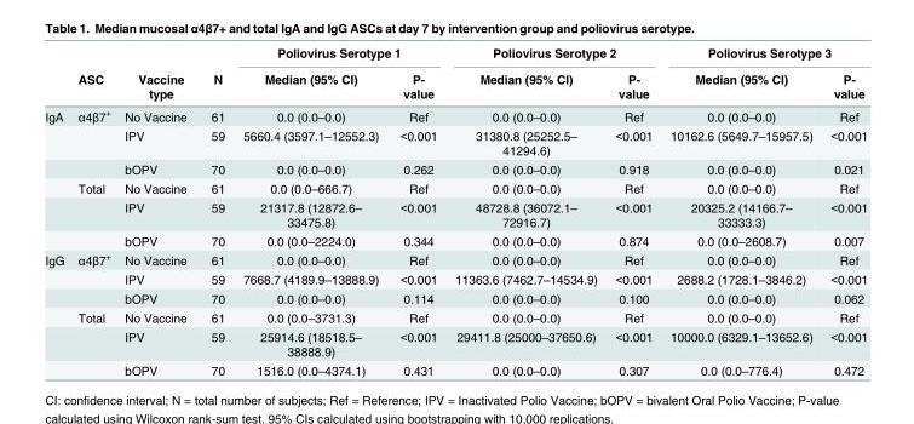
<table><thead><tr><td rowspan="2"></td><td rowspan="2">ASC</td><td rowspan="2">Vaccine type</td><td rowspan="2">N</td><td colspan="2">Poliovirus Serotype 1</td><td colspan="2">Poliovirus Serotype 2</td><td colspan="2">Poliovirus Serotype 3</td></tr><tr><td>Median (95% CI)</td><td>P- value</td><td>Median (95% CI)</td><td>P- value</td><td>Median (95% CI)</td><td>P- value</td></tr></thead><tbody><tr><td rowspan="6">IgA</td><td>α4β7<sup>+</sup></td><td>No Vaccine</td><td>61</td><td>0.0 (0.0–0.0)</td><td>Ref</td><td>0.0 (0.0–0.0)</td><td>Ref</td><td>0.0 (0.0–0.0)</td><td>Ref</td></tr><tr><td></td><td>IPV</td><td>59</td><td>5660.4 (3597.1–12552.3)</td><td>&lt;0.001</td><td>31380.8 (25252.5– 41294.6)</td><td>&lt;0.001</td><td>10162.6 (5649.7–15957.5)</td><td>&lt;0.001</td></tr><tr><td></td><td>bOPV</td><td>70</td><td>0.0 (0.0–0.0)</td><td>0.262</td><td>0.0 (0.0–0.0)</td><td>0.918</td><td>0.0 (0.0–0.0)</td><td>0.021</td></tr><tr><td>Total</td><td>No Vaccine</td><td>61</td><td>0.0 (0.0–666.7)</td><td>Ref</td><td>0.0 (0.0–0.0)</td><td>Ref</td><td>0.0 (0.0–0.0)</td><td>Ref</td></tr><tr><td></td><td>IPV</td><td>59</td><td>21317.8 (12872.6– 33475.8)</td><td>&lt;0.001</td><td>48728.8 (36072.1– 72916.7)</td><td>&lt;0.001</td><td>20325.2 (14166.7– 33333.3)</td><td>&lt;0.001</td></tr><tr><td></td><td>bOPV</td><td>70</td><td>0.0 (0.0–2224.0)</td><td>0.344</td><td>0.0 (0.0–0.0)</td><td>0.874</td><td>0.0 (0.0–2608.7)</td><td>0.007</td></tr><tr><td rowspan="6">IgG</td><td>α4β7<sup>+</sup></td><td>No Vaccine</td><td>61</td><td>0.0 (0.0–0.0)</td><td>Ref</td><td>0.0 (0.0–0.0)</td><td>Ref</td><td>0.0 (0.0–0.0)</td><td>Ref</td></tr><tr><td></td><td>IPV</td><td>59</td><td>7668.7 (4189.9–13888.9)</td><td>&lt;0.001</td><td>11363.6 (7462.7–14534.9)</td><td>&lt;0.001</td><td>2688.2 (1728.1–3846.2)</td><td>&lt;0.001</td></tr><tr><td></td><td>bOPV</td><td>70</td><td>0.0 (0.0–0.0)</td><td>0.114</td><td>0.0 (0.0–0.0)</td><td>0.100</td><td>0.0 (0.0–0.0)</td><td>0.062</td></tr><tr><td>Total</td><td>No Vaccine</td><td>61</td><td>0.0 (0.0–3731.3)</td><td>Ref</td><td>0.0 (0.0–0.0)</td><td>Ref</td><td>0.0 (0.0–0.0)</td><td>Ref</td></tr><tr><td></td><td>IPV</td><td>59</td><td>25914.6 (18518.5– 38888.9)</td><td>&lt;0.001</td><td>29411.8 (25000–37650.6)</td><td>&lt;0.001</td><td>10000.0 (6329.1–13652.6)</td><td>&lt;0.001</td></tr><tr><td></td><td>bOPV</td><td>70</td><td>1516.0 (0.0–4374.1)</td><td>0.431</td><td>0.0 (0.0–0.0)</td><td>0.307</td><td>0.0 (0.0–776.4)</td><td>0.472</td></tr></tbody></table>